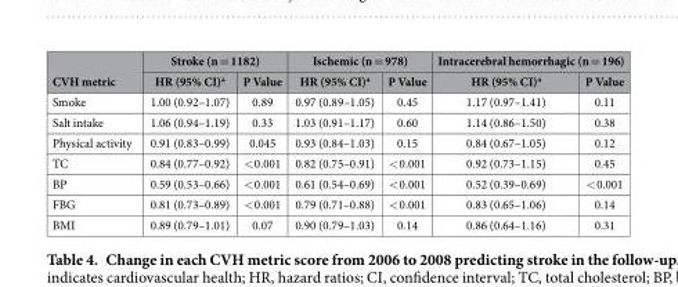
<table><thead><tr><td rowspan="2">CVH metric</td><td colspan="2">Stroke (n = 1182)</td><td colspan="2">Ischemic (n = 978)</td><td colspan="2">Intracerebral hemorrhagic (n = 196)</td></tr><tr><td>HR (95% CI)<sup>a</sup></td><td>P Value</td><td>HR (95% CI)<sup>a</sup></td><td>P Value</td><td>HR (95% CI)<sup>a</sup></td><td>P Value</td></tr></thead><tbody><tr><td>Smoke</td><td>1.00 (0.92–1.07)</td><td>0.89</td><td>0.97 (0.89–1.05)</td><td>0.45</td><td>1.17 (0.97–1.41)</td><td>0.11</td></tr><tr><td>Salt intake</td><td>1.06 (0.94–1.19)</td><td>0.33</td><td>1.03 (0.91–1.17)</td><td>0.60</td><td>1.14 (0.86–1.50)</td><td>0.38</td></tr><tr><td>Physical activity</td><td>0.91 (0.83–0.99)</td><td>0.045</td><td>0.93 (0.84–1.03)</td><td>0.15</td><td>0.84 (0.67–1.05)</td><td>0.12</td></tr><tr><td>TC</td><td>0.84 (0.77–0.92)</td><td>&lt; 0.001</td><td>0.82 (0.75–0.91)</td><td>&lt; 0.001</td><td>0.92 (0.73–1.15)</td><td>0.45</td></tr><tr><td>BP</td><td>0.59 (0.53–0.66)</td><td>&lt; 0.001</td><td>0.61 (0.54–0.69)</td><td>&lt; 0.001</td><td>0.52 (0.39–0.69)</td><td>&lt; 0.001</td></tr><tr><td>FBG</td><td>0.81 (0.73–0.89)</td><td>&lt; 0.001</td><td>0.79 (0.71–0.88)</td><td>&lt; 0.001</td><td>0.83 (0.65–1.06)</td><td>0.14</td></tr><tr><td>BMI</td><td>0.89 (0.79–1.01)</td><td>0.07</td><td>0.90 (0.79–1.03)</td><td>0.14</td><td>0.86 (0.64–1.16)</td><td>0.31</td></tr></tbody></table>